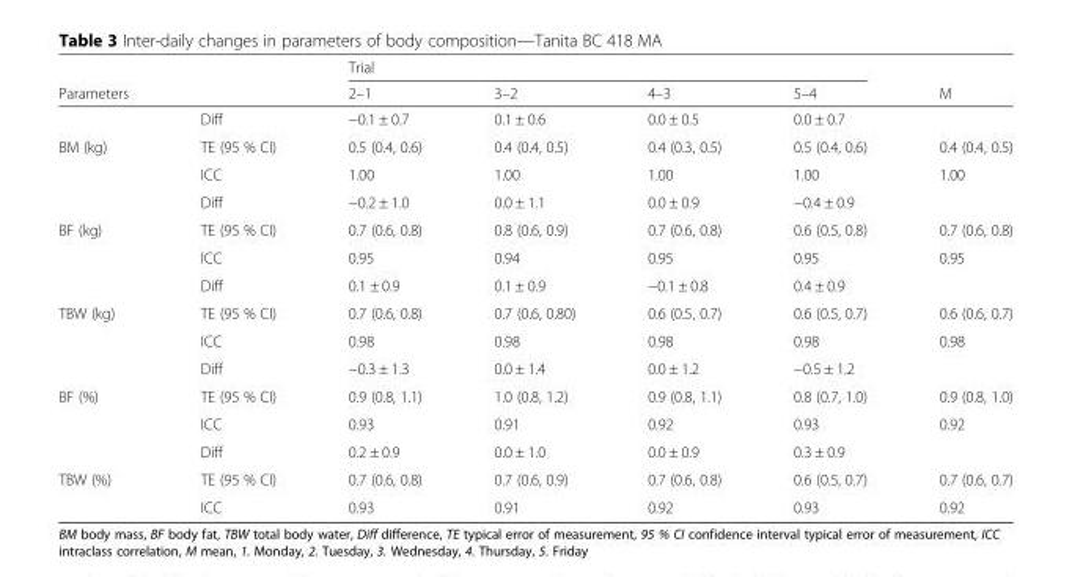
<table><thead><tr><td rowspan="2">Parameters</td><td rowspan="2"></td><td colspan="4">Trial</td><td rowspan="2">M</td></tr><tr><td>2–1</td><td>3–2</td><td>4–3</td><td>5–4</td></tr></thead><tbody><tr><td></td><td>Diff</td><td>−0.1 ± 0.7</td><td>0.1 ± 0.6</td><td>0.0 ± 0.5</td><td>0.0 ± 0.7</td><td></td></tr><tr><td rowspan="3">BM (kg)</td><td>TE (95 % CI)</td><td>0.5 (0.4, 0.6)</td><td>0.4 (0.4, 0.5)</td><td>0.4 (0.3, 0.5)</td><td>0.5 (0.4, 0.6)</td><td>0.4 (0.4, 0.5)</td></tr><tr><td>ICC</td><td>1.00</td><td>1.00</td><td>1.00</td><td>1.00</td><td>1.00</td></tr><tr><td>Diff</td><td>−0.2 ± 1.0</td><td>0.0 ± 1.1</td><td>0.0 ± 0.9</td><td>−0.4 ± 0.9</td><td></td></tr><tr><td rowspan="3">BF (kg)</td><td>TE (95 % CI)</td><td>0.7 (0.6, 0.8)</td><td>0.8 (0.6, 0.9)</td><td>0.7 (0.6, 0.8)</td><td>0.6 (0.5, 0.8)</td><td>0.7 (0.6, 0.8)</td></tr><tr><td>ICC</td><td>0.95</td><td>0.94</td><td>0.95</td><td>0.95</td><td>0.95</td></tr><tr><td>Diff</td><td>0.1 ± 0.9</td><td>0.1 ± 0.9</td><td>−0.1 ± 0.8</td><td>0.4 ± 0.9</td><td></td></tr><tr><td rowspan="3">TBW (kg)</td><td>TE (95 % CI)</td><td>0.7 (0.6, 0.8)</td><td>0.7 (0.6, 0.80)</td><td>0.6 (0.5, 0.7)</td><td>0.6 (0.5, 0.7)</td><td>0.6 (0.6, 0.7)</td></tr><tr><td>ICC</td><td>0.98</td><td>0.98</td><td>0.98</td><td>0.98</td><td>0.98</td></tr><tr><td>Diff</td><td>−0.3 ± 1.3</td><td>0.0 ± 1.4</td><td>0.0 ± 1.2</td><td>−0.5 ± 1.2</td><td></td></tr><tr><td rowspan="3">BF (%)</td><td>TE (95 % CI)</td><td>0.9 (0.8, 1.1)</td><td>1.0 (0.8, 1.2)</td><td>0.9 (0.8, 1.1)</td><td>0.8 (0.7, 1.0)</td><td>0.9 (0.8, 1.0)</td></tr><tr><td>ICC</td><td>0.93</td><td>0.91</td><td>0.92</td><td>0.93</td><td>0.92</td></tr><tr><td>Diff</td><td>0.2 ± 0.9</td><td>0.0 ± 1.0</td><td>0.0 ± 0.9</td><td>0.3 ± 0.9</td><td></td></tr><tr><td rowspan="2">TBW (%)</td><td>TE (95 % CI)</td><td>0.7 (0.6, 0.8)</td><td>0.7 (0.6, 0.9)</td><td>0.7 (0.6, 0.8)</td><td>0.6 (0.5, 0.7)</td><td>0.7 (0.6, 0.7)</td></tr><tr><td>ICC</td><td>0.93</td><td>0.91</td><td>0.92</td><td>0.93</td><td>0.92</td></tr></tbody></table>